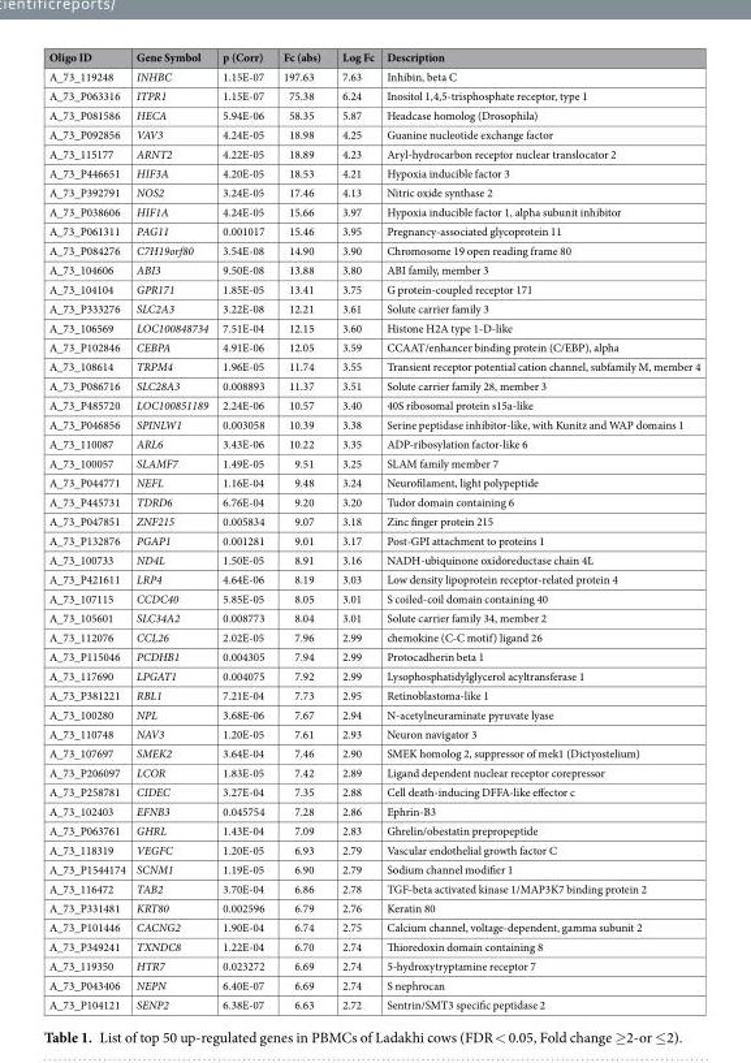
<table><thead><tr><td>Oligo ID</td><td>Gene Symbol</td><td>p (Corr)</td><td>Fc (abs)</td><td>Log Fc</td><td>Description</td></tr></thead><tbody><tr><td>A_73_119248</td><td>INHBC</td><td>1.15E-07</td><td>197.63</td><td>7.63</td><td>Inhibin, beta C</td></tr><tr><td>A_73_P063316</td><td>ITPR1</td><td>1.15E-07</td><td>75.38</td><td>6.24</td><td>Inositol 1,4,5-trisphosphate receptor, type 1</td></tr><tr><td>A_73_P081586</td><td>HECA</td><td>5.94E-06</td><td>58.35</td><td>5.87</td><td>Headcase homolog (Drosophila)</td></tr><tr><td>A_73_P092856</td><td>VAV3</td><td>4.24E-05</td><td>18.98</td><td>4.25</td><td>Guanine nucleotide exchange factor</td></tr><tr><td>A_73_115177</td><td>ARNT2</td><td>4.22E-05</td><td>18.89</td><td>4.23</td><td>Aryl-hydrocarbon receptor nuclear translocator 2</td></tr><tr><td>A_73_P446651</td><td>HIF3A</td><td>4.20E-05</td><td>18.53</td><td>4.21</td><td>Hypoxia inducible factor 3</td></tr><tr><td>A_73_P392791</td><td>NOS2</td><td>3.24E-05</td><td>17.46</td><td>4.13</td><td>Nitric oxide synthase 2</td></tr><tr><td>A_73_P038606</td><td>HIF1A</td><td>4.24E-05</td><td>15.66</td><td>3.97</td><td>Hypoxia inducible factor 1, alpha subunit inhibitor</td></tr><tr><td>A_73_P061311</td><td>PAG11</td><td>0.001017</td><td>15.46</td><td>3.95</td><td>Pregnancy-associated glycoprotein 11</td></tr><tr><td>A_73_P084276</td><td>C7H19orf80</td><td>3.54E-08</td><td>14.90</td><td>3.90</td><td>Chromosome 19 open reading frame 80</td></tr><tr><td>A_73_104606</td><td>ABI3</td><td>9.50E-08</td><td>13.88</td><td>3.80</td><td>ABI family, member 3</td></tr><tr><td>A_73_104104</td><td>GPR171</td><td>1.85E-05</td><td>13.41</td><td>3.75</td><td>G protein-coupled receptor 171</td></tr><tr><td>A_73_P333276</td><td>SLC2A3</td><td>3.22E-08</td><td>12.21</td><td>3.61</td><td>Solute carrier family 3</td></tr><tr><td>A_73_106569</td><td>LOC100848734</td><td>7.51E-04</td><td>12.15</td><td>3.60</td><td>Histone H2A type 1-D-like</td></tr><tr><td>A_73_P102846</td><td>CEBPA</td><td>4.91E-06</td><td>12.05</td><td>3.59</td><td>CCAAT/enhancer binding protein (C/EBP), alpha</td></tr><tr><td>A_73_108614</td><td>TRPM4</td><td>1.96E-05</td><td>11.74</td><td>3.55</td><td>Transient receptor potential cation channel, subfamily M, member 4</td></tr><tr><td>A_73_P086716</td><td>SLC28A3</td><td>0.008893</td><td>11.37</td><td>3.51</td><td>Solute carrier family 28, member 3</td></tr><tr><td>A_73_P485720</td><td>LOC100851189</td><td>2.24E-06</td><td>10.57</td><td>3.40</td><td>40S ribosomal protein s15a-like</td></tr><tr><td>A_73_P046856</td><td>SPINLW1</td><td>0.003058</td><td>10.39</td><td>3.38</td><td>Serine peptidase inhibitor-like, with Kunitz and WAP domains 1</td></tr><tr><td>A_73_110087</td><td>ARL6</td><td>3.43E-06</td><td>10.22</td><td>3.35</td><td>ADP-ribosylation factor-like 6</td></tr><tr><td>A_73_100057</td><td>SLAMF7</td><td>1.49E-05</td><td>9.51</td><td>3.25</td><td>SLAM family member 7</td></tr><tr><td>A_73_P044771</td><td>NEFL</td><td>1.16E-04</td><td>9.48</td><td>3.24</td><td>Neurofilament, light polypeptide</td></tr><tr><td>A_73_P445731</td><td>TDRD6</td><td>6.76E-04</td><td>9.20</td><td>3.20</td><td>Tudor domain containing 6</td></tr><tr><td>A_73_P047851</td><td>ZNF215</td><td>0.005834</td><td>9.07</td><td>3.18</td><td>Zinc finger protein 215</td></tr><tr><td>A_73_P132876</td><td>PGAP1</td><td>0.001281</td><td>9.01</td><td>3.17</td><td>Post-GPI attachment to proteins 1</td></tr><tr><td>A_73_100733</td><td>ND4L</td><td>1.50E-05</td><td>8.91</td><td>3.16</td><td>NADH-ubiquinone oxidoreductase chain 4L</td></tr><tr><td>A_73_P421611</td><td>LRP4</td><td>4.64E-06</td><td>8.19</td><td>3.03</td><td>Low density lipoprotein receptor-related protein 4</td></tr><tr><td>A_73_107115</td><td>CCDC40</td><td>5.85E-05</td><td>8.05</td><td>3.01</td><td>S coiled-coil domain containing 40</td></tr><tr><td>A_73_105601</td><td>SLC34A2</td><td>0.008773</td><td>8.04</td><td>3.01</td><td>Solute carrier family 34, member 2</td></tr><tr><td>A_73_112076</td><td>CCL26</td><td>2.02E-05</td><td>7.96</td><td>2.99</td><td>chemokine (C-C motif) ligand 26</td></tr><tr><td>A_73_P115046</td><td>PCDHB1</td><td>0.004305</td><td>7.94</td><td>2.99</td><td>Protocadherin beta 1</td></tr><tr><td>A_73_117690</td><td>LPGAT1</td><td>0.004075</td><td>7.92</td><td>2.99</td><td>Lysophosphatidylglycerol acyltransferase 1</td></tr><tr><td>A_73_P381221</td><td>RBL1</td><td>7.21E-04</td><td>7.73</td><td>2.95</td><td>Retinoblastoma-like 1</td></tr><tr><td>A_73_100280</td><td>NPL</td><td>3.68E-06</td><td>7.67</td><td>2.94</td><td>N-acetylneuraminate pyruvate lyase</td></tr><tr><td>A_73_110748</td><td>NAV3</td><td>1.20E-05</td><td>7.61</td><td>2.93</td><td>Neuron navigator 3</td></tr><tr><td>A_73_107697</td><td>SMEK2</td><td>3.64E-04</td><td>7.46</td><td>2.90</td><td>SMEK homolog 2, suppressor of mek1 (Dictyostelium)</td></tr><tr><td>A_73_P206097</td><td>LCOR</td><td>1.83E-05</td><td>7.42</td><td>2.89</td><td>Ligand dependent nuclear receptor corepressor</td></tr><tr><td>A_73_P258781</td><td>CIDEC</td><td>3.27E-04</td><td>7.35</td><td>2.88</td><td>Cell death-inducing DFFA-like effector c</td></tr><tr><td>A_73_102403</td><td>EFNB3</td><td>0.045754</td><td>7.28</td><td>2.86</td><td>Ephrin-B3</td></tr><tr><td>A_73_P063761</td><td>GHRL</td><td>1.43E-04</td><td>7.09</td><td>2.83</td><td>Ghrelin/obestatin prepropeptide</td></tr><tr><td>A_73_118319</td><td>VEGFC</td><td>1.20E-05</td><td>6.93</td><td>2.79</td><td>Vascular endothelial growth factor C</td></tr><tr><td>A_73_P1544174</td><td>SCNM1</td><td>1.19E-05</td><td>6.90</td><td>2.79</td><td>Sodium channel modifier 1</td></tr><tr><td>A_73_116472</td><td>TAB2</td><td>3.70E-04</td><td>6.86</td><td>2.78</td><td>TGF-beta activated kinase 1/MAP3K7 binding protein 2</td></tr><tr><td>A_73_P331481</td><td>KRT80</td><td>0.002596</td><td>6.79</td><td>2.76</td><td>Keratin 80</td></tr><tr><td>A_73_P101446</td><td>CACNG2</td><td>1.90E-04</td><td>6.74</td><td>2.75</td><td>Calcium channel, voltage-dependent, gamma subunit 2</td></tr><tr><td>A_73_P349241</td><td>TXNDC8</td><td>1.22E-04</td><td>6.70</td><td>2.74</td><td>Thioredoxin domain containing 8</td></tr><tr><td>A_73_119350</td><td>HTR7</td><td>0.023272</td><td>6.69</td><td>2.74</td><td>5-hydroxytryptamine receptor 7</td></tr><tr><td>A_73_P043406</td><td>NEPN</td><td>6.40E-07</td><td>6.69</td><td>2.74</td><td>S nephrocan</td></tr><tr><td>A_73_P104121</td><td>SENP2</td><td>6.38E-07</td><td>6.63</td><td>2.72</td><td>Sentrin/SMT3 specific peptidase 2</td></tr></tbody></table>